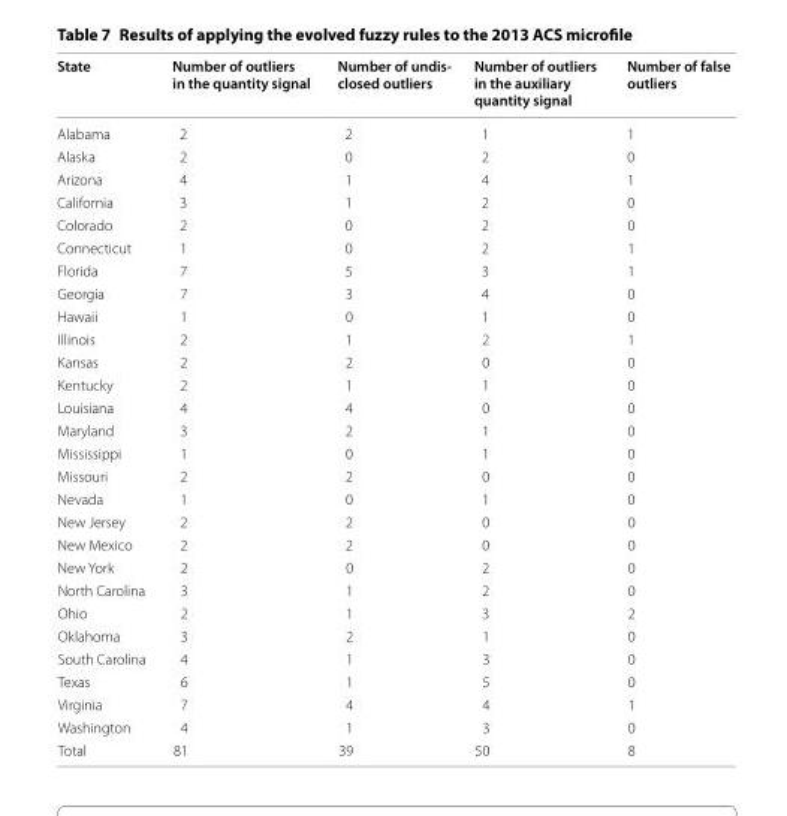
<table><thead><tr><td>State</td><td>Number of outliers in the quantity signal</td><td>Number of undis- closed outliers</td><td>Number of outliers in the auxiliary quantity signal</td><td>Number of false outliers</td></tr></thead><tbody><tr><td>Alabama</td><td>2</td><td>2</td><td>1</td><td>1</td></tr><tr><td>Alaska</td><td>2</td><td>0</td><td>2</td><td>0</td></tr><tr><td>Arizona</td><td>4</td><td>1</td><td>4</td><td>1</td></tr><tr><td>California</td><td>3</td><td>1</td><td>2</td><td>0</td></tr><tr><td>Colorado</td><td>2</td><td>0</td><td>2</td><td>0</td></tr><tr><td>Connecticut</td><td>1</td><td>0</td><td>2</td><td>1</td></tr><tr><td>Florida</td><td>7</td><td>5</td><td>3</td><td>1</td></tr><tr><td>Georgia</td><td>7</td><td>3</td><td>4</td><td>0</td></tr><tr><td>Hawaii</td><td>1</td><td>0</td><td>1</td><td>0</td></tr><tr><td>Illinois</td><td>2</td><td>1</td><td>2</td><td>1</td></tr><tr><td>Kansas</td><td>2</td><td>2</td><td>0</td><td>0</td></tr><tr><td>Kentucky</td><td>2</td><td>1</td><td>1</td><td>0</td></tr><tr><td>Louisiana</td><td>4</td><td>4</td><td>0</td><td>0</td></tr><tr><td>Maryland</td><td>3</td><td>2</td><td>1</td><td>0</td></tr><tr><td>Mississippi</td><td>1</td><td>0</td><td>1</td><td>0</td></tr><tr><td>Missouri</td><td>2</td><td>2</td><td>0</td><td>0</td></tr><tr><td>Nevada</td><td>1</td><td>0</td><td>1</td><td>0</td></tr><tr><td>New Jersey</td><td>2</td><td>2</td><td>0</td><td>0</td></tr><tr><td>New Mexico</td><td>2</td><td>2</td><td>0</td><td>0</td></tr><tr><td>New York</td><td>2</td><td>0</td><td>2</td><td>0</td></tr><tr><td>North Carolina</td><td>3</td><td>1</td><td>2</td><td>0</td></tr><tr><td>Ohio</td><td>2</td><td>1</td><td>3</td><td>2</td></tr><tr><td>Oklahoma</td><td>3</td><td>2</td><td>1</td><td>0</td></tr><tr><td>South Carolina</td><td>4</td><td>1</td><td>3</td><td>0</td></tr><tr><td>Texas</td><td>6</td><td>1</td><td>5</td><td>0</td></tr><tr><td>Virginia</td><td>7</td><td>4</td><td>4</td><td>1</td></tr><tr><td>Washington</td><td>4</td><td>1</td><td>3</td><td>0</td></tr><tr><td>Total</td><td>81</td><td>39</td><td>50</td><td>8</td></tr></tbody></table>